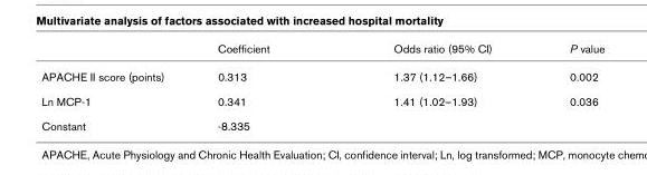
<table><thead><tr><td></td><td>Coefficient</td><td>Odds ratio (95% CI)</td><td>P value</td></tr></thead><tbody><tr><td>APACHE II score (points)</td><td>0.313</td><td>1.37 (1.12–1.66)</td><td>0.002</td></tr><tr><td>Ln MCP-1</td><td>0.341</td><td>1.41 (1.02–1.93)</td><td>0.036</td></tr><tr><td>Constant</td><td>-8.335</td><td></td><td></td></tr></tbody></table>